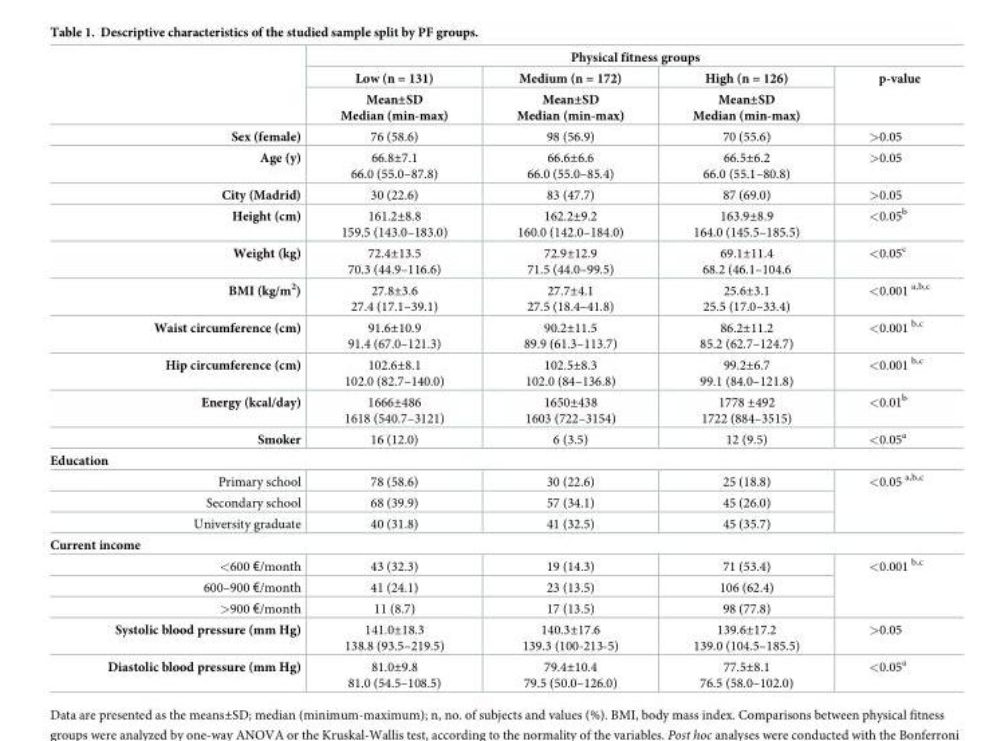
<table><thead><tr><td rowspan="3"></td><td colspan="4">Physical fitness groups</td></tr><tr><td rowspan="2">Low (n = 131) Mean±SD Median (min-max)</td><td rowspan="2">Medium (n = 172) Mean±SD Median (min-max)</td><td rowspan="2">High (n = 126) Mean±SD Median (min-max)</td><td rowspan="2">p-value</td></tr><tr></tr></thead><tbody><tr><td>Sex (female)</td><td>76 (58.6)</td><td>98 (56.9)</td><td>70 (55.6)</td><td>&gt;0.05</td></tr><tr><td>Age (y)</td><td>66.8±7.1 66.0 (55.0–87.8)</td><td>66.6±6.6 66.0 (55.0–85.4)</td><td>66.5±6.2 66.0 (55.1–80.8)</td><td>&gt;0.05</td></tr><tr><td>City (Madrid)</td><td>30 (22.6)</td><td>83 (47.7)</td><td>87 (69.0)</td><td>&gt;0.05</td></tr><tr><td>Height (cm)</td><td>161.2±8.8 159.5 (143.0–183.0)</td><td>162.2±9.2 160.0 (142.0–184.0)</td><td>163.9±8.9 164.0 (145.5–185.5)</td><td>&lt;0.05<sup>b</sup></td></tr><tr><td>Weight (kg)</td><td>72.4±13.5 70.3 (44.9–116.6)</td><td>72.9±12.9 71.5 (44.0–99.5)</td><td>69.1±11.4 68.2 (46.1–104.6</td><td>&lt;0.05<sup>c</sup></td></tr><tr><td>BMI (kg/m<sup>2</sup>)</td><td>27.8±3.6 27.4 (17.1–39.1)</td><td>27.7±4.1 27.5 (18.4–41.8)</td><td>25.6±3.1 25.5 (17.0–33.4)</td><td>&lt;0.001 <sup>a,b,c</sup></td></tr><tr><td>Waist circumference (cm)</td><td>91.6±10.9 91.4 (67.0–121.3)</td><td>90.2±11.5 89.9 (61.3–113.7)</td><td>86.2±11.2 85.2 (62.7–124.7)</td><td>&lt;0.001 <sup>b,c</sup></td></tr><tr><td>Hip circumference (cm)</td><td>102.6±8.1 102.0 (82.7–140.0)</td><td>102.5±8.3 102.0 (84–136.8)</td><td>99.2±6.7 99.1 (84.0–121.8)</td><td>&lt;0.001 <sup>b,c</sup></td></tr><tr><td>Energy (kcal/day)</td><td>1666±486 1618 (540.7–3121)</td><td>1650±438 1603 (722–3154)</td><td>1778 ±492 1722 (884–3515)</td><td>&lt;0.01<sup>b</sup></td></tr><tr><td>Smoker</td><td>16 (12.0)</td><td>6 (3.5)</td><td>12 (9.5)</td><td>&lt;0.05<sup>a</sup></td></tr><tr><td colspan="5">Education</td></tr><tr><td>Primary school</td><td>78 (58.6)</td><td>30 (22.6)</td><td>25 (18.8)</td><td rowspan="3">&lt;0.05 <sup>a,b,c</sup></td></tr><tr><td>Secondary school</td><td>68 (39.9)</td><td>57 (34.1)</td><td>45 (26.0)</td></tr><tr><td>University graduate</td><td>40 (31.8)</td><td>41 (32.5)</td><td>45 (35.7)</td></tr><tr><td colspan="5">Current income</td></tr><tr><td>&lt;600 €/month</td><td>43 (32.3)</td><td>19 (14.3)</td><td>71 (53.4)</td><td rowspan="3">&lt;0.001 <sup>b,c</sup></td></tr><tr><td>600–900 €/month</td><td>41 (24.1)</td><td>23 (13.5)</td><td>106 (62.4)</td></tr><tr><td>&gt;900 €/month</td><td>11 (8.7)</td><td>17 (13.5)</td><td>98 (77.8)</td></tr><tr><td>Systolic blood pressure (mm Hg)</td><td>141.0±18.3 138.8 (93.5–219.5)</td><td>140.3±17.6 139.3 (100-213-5)</td><td>139.6±17.2 139.0 (104.5–185.5)</td><td>&gt;0.05</td></tr><tr><td>Diastolic blood pressure (mm Hg)</td><td>81.0±9.8 81.0 (54.5–108.5)</td><td>79.4±10.4 79.5 (50.0–126.0)</td><td>77.5±8.1 76.5 (58.0–102.0)</td><td>&lt;0.05<sup>a</sup></td></tr></tbody></table>